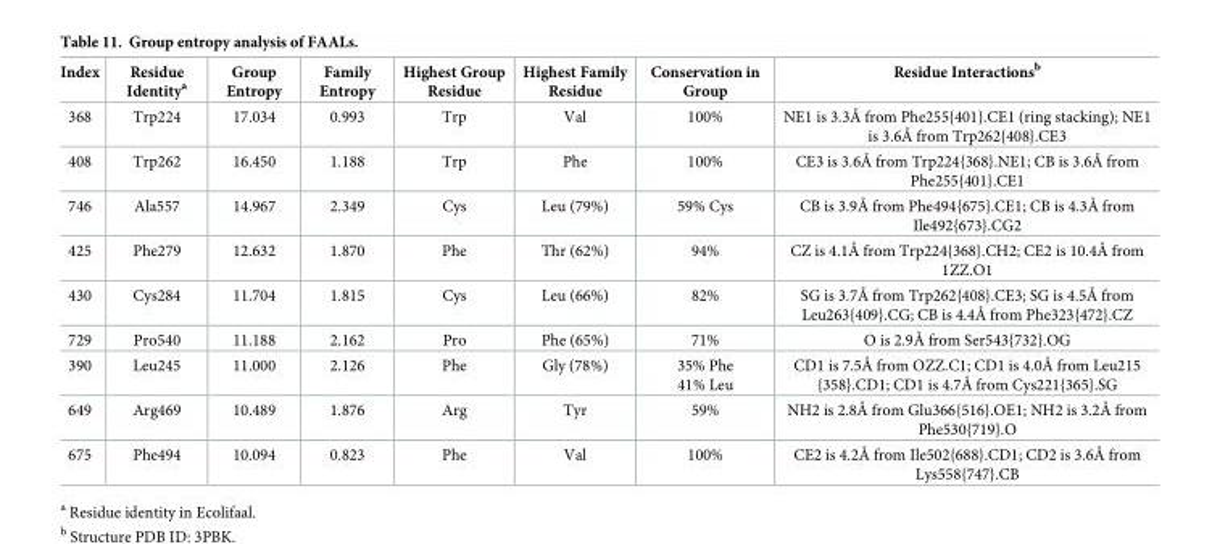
<table><thead><tr><td>Index</td><td>Residue Identity<sup>a</sup></td><td>Group Entropy</td><td>Family Entropy</td><td>Highest Group Residue</td><td>Highest Family Residue</td><td>Conservation in Group</td><td>Residue Interactions<sup>b</sup></td></tr></thead><tbody><tr><td>368</td><td>Trp224</td><td>17.034</td><td>0.993</td><td>Trp</td><td>Val</td><td>100%</td><td>NE1 is 3.3Å from Phe255{401}.CE1 (ring stacking); NE1 is 3.6Å from Trp262{408}.CE3</td></tr><tr><td>408</td><td>Trp262</td><td>16.450</td><td>1.188</td><td>Trp</td><td>Phe</td><td>100%</td><td>CE3 is 3.6Å from Trp224{368}.NE1; CB is 3.6Å from Phe255{401}.CE1</td></tr><tr><td>746</td><td>Ala557</td><td>14.967</td><td>2.349</td><td>Cys</td><td>Leu (79%)</td><td>59% Cys</td><td>CB is 3.9Å from Phe494{675}.CE1; CB is 4.3Å from Ile492{673}.CG2</td></tr><tr><td>425</td><td>Phe279</td><td>12.632</td><td>1.870</td><td>Phe</td><td>Thr (62%)</td><td>94%</td><td>CZ is 4.1Å from Trp224{368}.CH2; CE2 is 10.4Å from 1ZZ.O1</td></tr><tr><td>430</td><td>Cys284</td><td>11.704</td><td>1.815</td><td>Cys</td><td>Leu (66%)</td><td>82%</td><td>SG is 3.7Å from Trp262{408}.CE3; SG is 4.5Å from Leu263{409}.CG; CB is 4.4Å from Phe323{472}.CZ</td></tr><tr><td>729</td><td>Pro540</td><td>11.188</td><td>2.162</td><td>Pro</td><td>Phe (65%)</td><td>71%</td><td>O is 2.9Å from Ser543{732}.OG</td></tr><tr><td>390</td><td>Leu245</td><td>11.000</td><td>2.126</td><td>Phe</td><td>Gly (78%)</td><td>35% Phe 41% Leu</td><td>CD1 is 7.5Å from OZZ.C1; CD1 is 4.0Å from Leu215 {358}.CD1; CD1 is 4.7Å from Cys221{365}.SG</td></tr><tr><td>649</td><td>Arg469</td><td>10.489</td><td>1.876</td><td>Arg</td><td>Tyr</td><td>59%</td><td>NH2 is 2.8Å from Glu366{516}.OE1; NH2 is 3.2Å from Phe530{719}.O</td></tr><tr><td>675</td><td>Phe494</td><td>10.094</td><td>0.823</td><td>Phe</td><td>Val</td><td>100%</td><td>CE2 is 4.2Å from Ile502{688}.CD1; CD2 is 3.6Å from Lys558{747}.CB</td></tr></tbody></table>